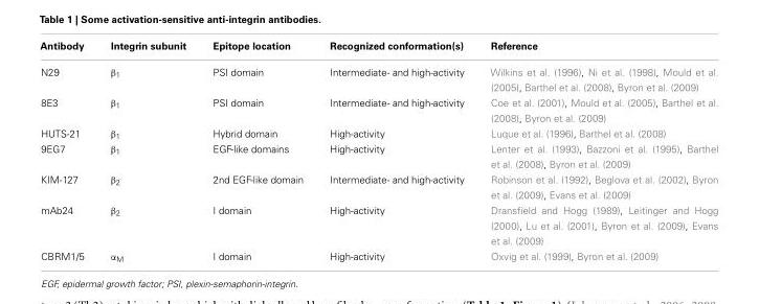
<table><thead><tr><td>Antibody</td><td>Integrin subunit</td><td>Epitope location</td><td>Recognized conformation(s)</td><td>Reference</td></tr></thead><tbody><tr><td>N29</td><td>β<sub>1</sub></td><td>PSI domain</td><td>Intermediate- and high-activity</td><td>Wilkins et al. (1996), Ni et al. (1998), Mould et al. (2005), Barthel et al. (2008), Byron et al. (2009)</td></tr><tr><td>8E3</td><td>β<sub>1</sub></td><td>PSI domain</td><td>Intermediate- and high-activity</td><td>Coe et al. (2001), Mould et al. (2005), Barthel et al. (2008), Byron et al. (2009)</td></tr><tr><td>HUTS-21</td><td>β<sub>1</sub></td><td>Hybrid domain</td><td>High-activity</td><td>Luque et al. (1996), Barthel et al. (2008)</td></tr><tr><td>9EG7</td><td>β<sub>1</sub></td><td>EGF-like domains</td><td>High-activity</td><td>Lenter et al. (1993), Bazzoni et al. (1995), Barthel et al. (2008), Byron et al. (2009)</td></tr><tr><td>KIM-127</td><td>β<sub>2</sub></td><td>2nd EGF-like domain</td><td>Intermediate- and high-activity</td><td>Robinson et al. (1992), Beglova et al. (2002), Byron et al. (2009), Evans et al. (2009)</td></tr><tr><td>mAb24</td><td>β<sub>2</sub></td><td>I domain</td><td>High-activity</td><td>Dransfield and Hogg (1989), Leitinger and Hogg (2000), Lu et al. (2001), Byron et al. (2009), Evans et al. (2009)</td></tr><tr><td>CBRM1/5</td><td>α<sub>M</sub></td><td>I domain</td><td>High-activity</td><td>Oxvig et al. (1999), Byron et al. (2009)</td></tr></tbody></table>